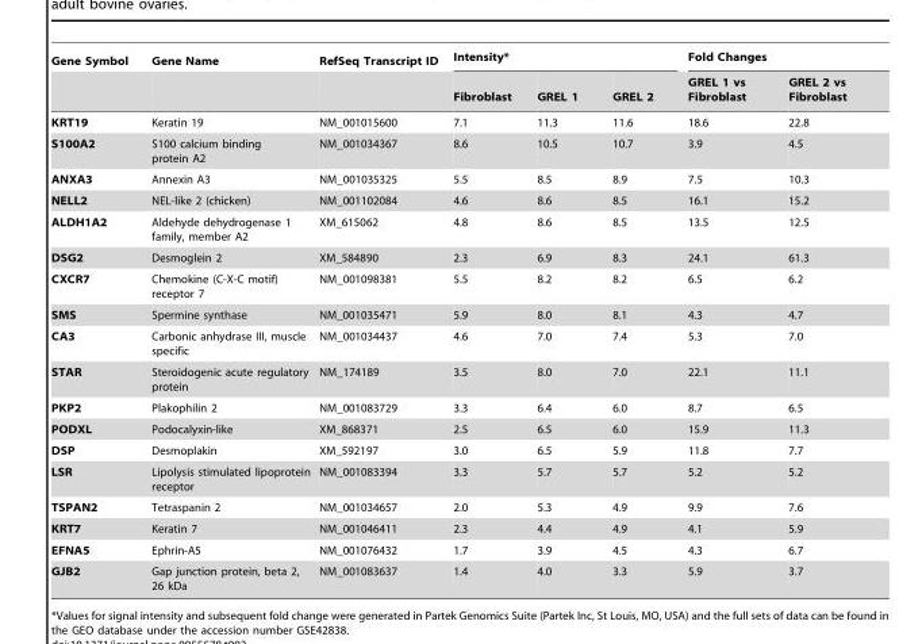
<table><thead><tr><td rowspan="2">Gene Symbol</td><td rowspan="2">Gene Name</td><td rowspan="2">RefSeq Transcript ID</td><td colspan="3">Intensity*</td><td colspan="2">Fold Changes</td></tr><tr><td>Fibroblast</td><td>GREL 1</td><td>GREL 2</td><td>GREL 1 vs Fibroblast</td><td>GREL 2 vs Fibroblast</td></tr></thead><tbody><tr><td>KRT19</td><td>Keratin 19</td><td>NM_001015600</td><td>7.1</td><td>11.3</td><td>11.6</td><td>18.6</td><td>22.8</td></tr><tr><td>S100A2</td><td>S100 calcium binding protein A2</td><td>NM_001034367</td><td>8.6</td><td>10.5</td><td>10.7</td><td>3.9</td><td>4.5</td></tr><tr><td>ANXA3</td><td>Annexin A3</td><td>NM_001035325</td><td>5.5</td><td>8.5</td><td>8.9</td><td>7.5</td><td>10.3</td></tr><tr><td>NELL2</td><td>NEL-like 2 (chicken)</td><td>NM_001102084</td><td>4.6</td><td>8.6</td><td>8.5</td><td>16.1</td><td>15.2</td></tr><tr><td>ALDH1A2</td><td>Aldehyde dehydrogenase 1 family, member A2</td><td>XM_615062</td><td>4.8</td><td>8.6</td><td>8.5</td><td>13.5</td><td>12.5</td></tr><tr><td>DSG2</td><td>Desmoglein 2</td><td>XM_584890</td><td>2.3</td><td>6.9</td><td>8.3</td><td>24.1</td><td>61.3</td></tr><tr><td>CXCR7</td><td>Chemokine (C-X-C motif) receptor 7</td><td>NM_001098381</td><td>5.5</td><td>8.2</td><td>8.2</td><td>6.5</td><td>6.2</td></tr><tr><td>SMS</td><td>Spermine synthase</td><td>NM_001035471</td><td>5.9</td><td>8.0</td><td>8.1</td><td>4.3</td><td>4.7</td></tr><tr><td>CA3</td><td>Carbonic anhydrase III, muscle specific</td><td>NM_001034437</td><td>4.6</td><td>7.0</td><td>7.4</td><td>5.3</td><td>7.0</td></tr><tr><td>STAR</td><td>Steroidogenic acute regulatory protein</td><td>NM_174189</td><td>3.5</td><td>8.0</td><td>7.0</td><td>22.1</td><td>11.1</td></tr><tr><td>PKP2</td><td>Plakophilin 2</td><td>NM_001083729</td><td>3.3</td><td>6.4</td><td>6.0</td><td>8.7</td><td>6.5</td></tr><tr><td>PODXL</td><td>Podocalyxin-like</td><td>XM_868371</td><td>2.5</td><td>6.5</td><td>6.0</td><td>15.9</td><td>11.3</td></tr><tr><td>DSP</td><td>Desmoplakin</td><td>XM_592197</td><td>3.0</td><td>6.5</td><td>5.9</td><td>11.8</td><td>7.7</td></tr><tr><td>LSR</td><td>Lipolysis stimulated lipoprotein receptor</td><td>NM_001083394</td><td>3.3</td><td>5.7</td><td>5.7</td><td>5.2</td><td>5.2</td></tr><tr><td>TSPAN2</td><td>Tetraspanin 2</td><td>NM_001034657</td><td>2.0</td><td>5.3</td><td>4.9</td><td>9.9</td><td>7.6</td></tr><tr><td>KRT7</td><td>Keratin 7</td><td>NM_001046411</td><td>2.3</td><td>4.4</td><td>4.9</td><td>4.1</td><td>5.9</td></tr><tr><td>EFNA5</td><td>Ephrin-A5</td><td>NM_001076432</td><td>1.7</td><td>3.9</td><td>4.5</td><td>4.3</td><td>6.7</td></tr><tr><td>GJB2</td><td>Gap junction protein, beta 2, 26 kDa</td><td>NM_001083637</td><td>1.4</td><td>4.0</td><td>3.3</td><td>5.9</td><td>3.7</td></tr></tbody></table>